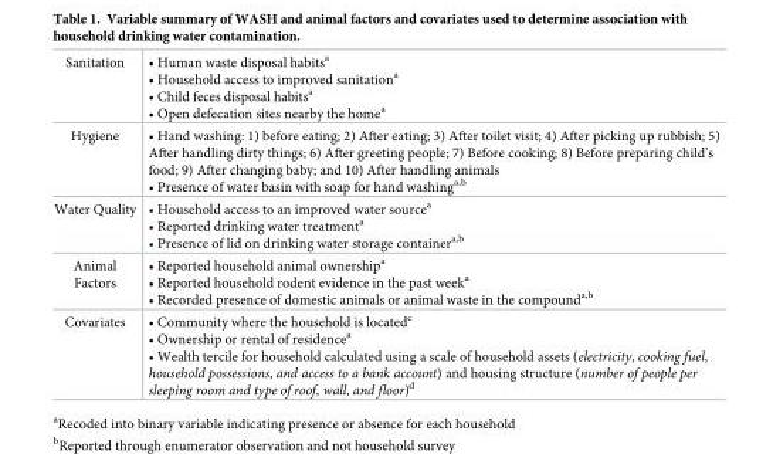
<table><tbody><tr><td>Sanitation</td><td>• Human waste disposal habits<sup>a</sup> • Household access to improved sanitation<sup>a</sup> • Child feces disposal habits<sup>a</sup> • Open defecation sites nearby the home<sup>a</sup></td></tr><tr><td>Hygiene</td><td>• Hand washing: 1) before eating; 2) After eating; 3) After toilet visit; 4) After picking up rubbish; 5) After handling dirty things; 6) After greeting people; 7) Before cooking; 8) Before preparing child’s food; 9) After changing baby; and 10) After handling animals • Presence of water basin with soap for hand washing<sup>a,b</sup></td></tr><tr><td>Water Quality</td><td>• Household access to an improved water source<sup>a</sup> • Reported drinking water treatment<sup>a</sup> • Presence of lid on drinking water storage container<sup>a,b</sup></td></tr><tr><td>Animal Factors</td><td>• Reported household animal ownership<sup>a</sup> • Reported household rodent evidence in the past week<sup>a</sup> • Recorded presence of domestic animals or animal waste in the compound<sup>a,b</sup></td></tr><tr><td>Covariates</td><td>• Community where the household is located<sup>c</sup> • Ownership or rental of residence<sup>a</sup> • Wealth tercile for household calculated using a scale of household assets (electricity, cooking fuel, household possessions, and access to a bank account) and housing structure (number of people per sleeping room and type of roof, wall, and floor)<sup>d</sup></td></tr></tbody></table>